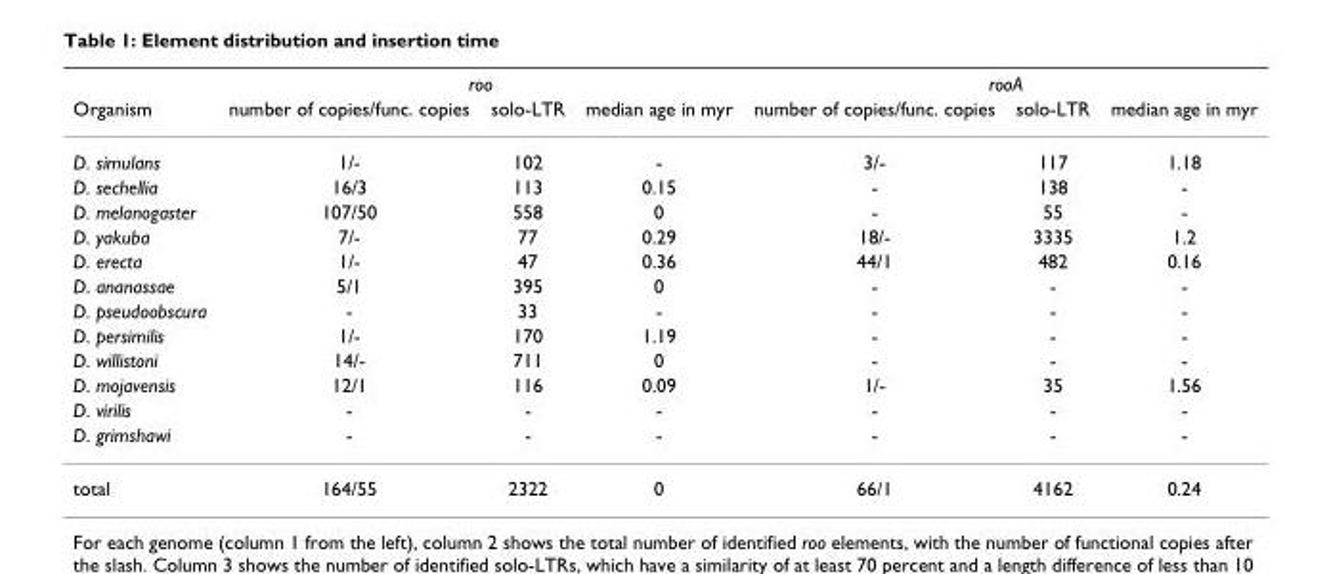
<table><thead><tr><td rowspan="2">Organism</td><td colspan="3">roo</td><td colspan="3">rooA</td></tr><tr><td>number of copies/func. copies</td><td>solo-LTR</td><td>median age in myr</td><td>number of copies/func. copies</td><td>solo-LTR</td><td>median age in myr</td></tr></thead><tbody><tr><td>D. simulans</td><td>1/-</td><td>102</td><td>-</td><td>3/-</td><td>117</td><td>1.18</td></tr><tr><td>D. sechellia</td><td>16/3</td><td>113</td><td>0.15</td><td>-</td><td>138</td><td>-</td></tr><tr><td>D. melanogaster</td><td>107/50</td><td>558</td><td>0</td><td>-</td><td>55</td><td>-</td></tr><tr><td>D. yakuba</td><td>7/-</td><td>77</td><td>0.29</td><td>18/-</td><td>3335</td><td>1.2</td></tr><tr><td>D. erecta</td><td>1/-</td><td>47</td><td>0.36</td><td>44/1</td><td>482</td><td>0.16</td></tr><tr><td>D. ananassae</td><td>5/1</td><td>395</td><td>0</td><td>-</td><td>-</td><td>-</td></tr><tr><td>D. pseudoobscura</td><td>-</td><td>33</td><td>-</td><td>-</td><td>-</td><td>-</td></tr><tr><td>D. persimilis</td><td>1/-</td><td>170</td><td>1.19</td><td>-</td><td>-</td><td>-</td></tr><tr><td>D. willistoni</td><td>14/-</td><td>711</td><td>0</td><td>-</td><td>-</td><td>-</td></tr><tr><td>D. mojavensis</td><td>12/1</td><td>116</td><td>0.09</td><td>1/-</td><td>35</td><td>1.56</td></tr><tr><td>D. virilis</td><td>-</td><td>-</td><td>-</td><td>-</td><td>-</td><td>-</td></tr><tr><td>D. grimshawi</td><td>-</td><td>-</td><td>-</td><td>-</td><td>-</td><td>-</td></tr><tr><td>total</td><td>164/55</td><td>2322</td><td>0</td><td>66/1</td><td>4162</td><td>0.24</td></tr></tbody></table>